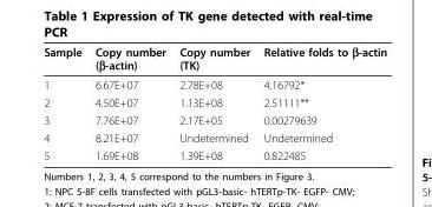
<table><thead><tr><td>Sample</td><td>Copy number (β-actin)</td><td>Copy number (TK)</td><td>Relative folds to β-actin</td></tr></thead><tbody><tr><td>1</td><td>6.67E+07</td><td>2.78E+08</td><td>4.16792*</td></tr><tr><td>2</td><td>4.50E+07</td><td>1.13E+08</td><td>2.51111**</td></tr><tr><td>3</td><td>7.76E+07</td><td>2.17E+05</td><td>0.00279639</td></tr><tr><td>4</td><td>8.21E+07</td><td>Undetermined</td><td>Undetermined</td></tr><tr><td>5</td><td>1.69E+08</td><td>1.39E+08</td><td>0.822485</td></tr></tbody></table>